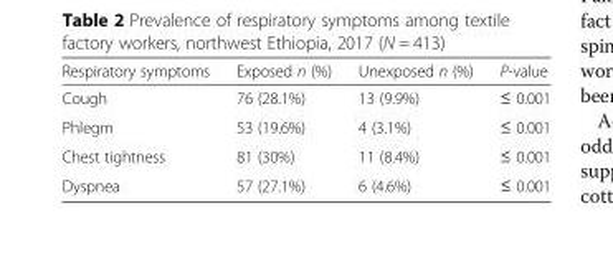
<table><thead><tr><td>Respiratory symptoms</td><td>Exposed n (%)</td><td>Unexposed n (%)</td><td>P-value</td></tr></thead><tbody><tr><td>Cough</td><td>76 (28.1%)</td><td>13 (9.9%)</td><td>≤ 0.001</td></tr><tr><td>Phlegm</td><td>53 (19.6%)</td><td>4 (3.1%)</td><td>≤ 0.001</td></tr><tr><td>Chest tightness</td><td>81 (30%)</td><td>11 (8.4%)</td><td>≤ 0.001</td></tr><tr><td>Dyspnea</td><td>57 (27.1%)</td><td>6 (4.6%)</td><td>≤ 0.001</td></tr></tbody></table>